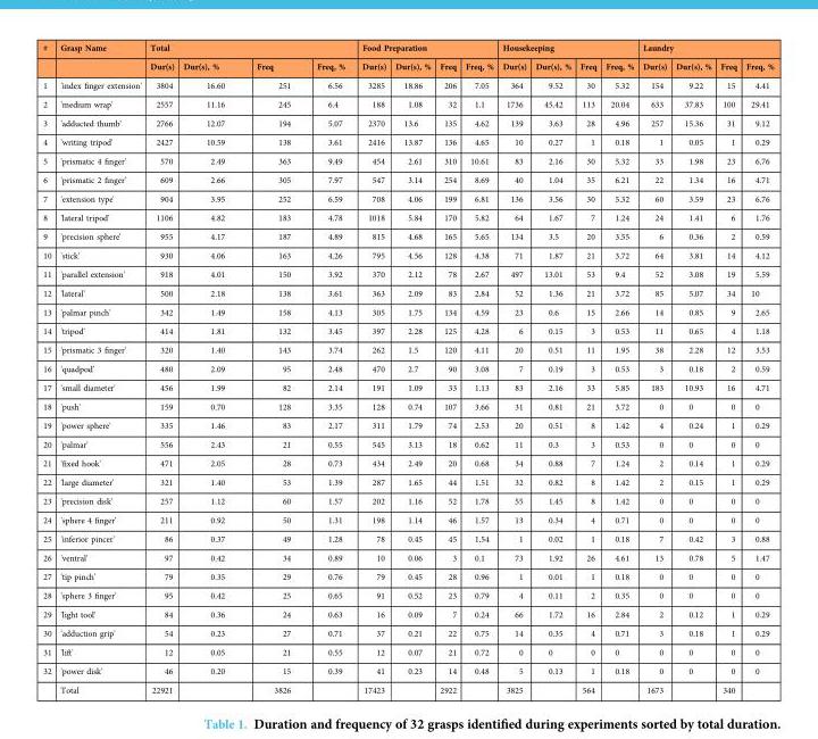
<table><thead><tr><td rowspan="2">#</td><td rowspan="2">Grasp Name</td><td colspan="4">Total</td><td colspan="4">Food Preparation</td><td colspan="4">Housekeeping</td><td colspan="4">Laundry</td></tr><tr><td>Dur(s)</td><td>Dur(s), %</td><td>Freq</td><td>Freq, %</td><td>Dur(s)</td><td>Dur(s), %</td><td>Freq</td><td>Freq, %</td><td>Dur(s)</td><td>Dur(s), %</td><td>Freq</td><td>Freq, %</td><td>Dur(s)</td><td>Dur(s), %</td><td>Freq</td><td>Freq, %</td></tr></thead><tbody><tr><td>1</td><td>&#x27;index finger extension&#x27;</td><td>3804</td><td>16.60</td><td>251</td><td>6.56</td><td>3285</td><td>18.86</td><td>206</td><td>7.05</td><td>364</td><td>9.52</td><td>30</td><td>5.32</td><td>154</td><td>9.22</td><td>15</td><td>4.41</td></tr><tr><td>2</td><td>&#x27;medium wrap&#x27;</td><td>2557</td><td>11.16</td><td>245</td><td>6.4</td><td>188</td><td>1.08</td><td>32</td><td>1.1</td><td>1736</td><td>45.42</td><td>113</td><td>20.04</td><td>633</td><td>37.83</td><td>100</td><td>29.41</td></tr><tr><td>3</td><td>&#x27;adducted thumb&#x27;</td><td>2766</td><td>12.07</td><td>194</td><td>5.07</td><td>2370</td><td>13.6</td><td>135</td><td>4.62</td><td>139</td><td>3.63</td><td>28</td><td>4.96</td><td>257</td><td>15.36</td><td>31</td><td>9.12</td></tr><tr><td>4</td><td>&#x27;writing tripod&#x27;</td><td>2427</td><td>10.59</td><td>138</td><td>3.61</td><td>2416</td><td>13.87</td><td>136</td><td>4.65</td><td>10</td><td>0.27</td><td>1</td><td>0.18</td><td>1</td><td>0.05</td><td>1</td><td>0.29</td></tr><tr><td>5</td><td>&#x27;prismatic 4 finger&#x27;</td><td>570</td><td>2.49</td><td>363</td><td>9.49</td><td>454</td><td>2.61</td><td>310</td><td>10.61</td><td>83</td><td>2.16</td><td>30</td><td>5.32</td><td>33</td><td>1.98</td><td>23</td><td>6.76</td></tr><tr><td>6</td><td>&#x27;prismatic 2 finger&#x27;</td><td>609</td><td>2.66</td><td>305</td><td>7.97</td><td>547</td><td>3.14</td><td>254</td><td>8.69</td><td>40</td><td>1.04</td><td>35</td><td>6.21</td><td>22</td><td>1.34</td><td>16</td><td>4.71</td></tr><tr><td>7</td><td>&#x27;extension type&#x27;</td><td>904</td><td>3.95</td><td>252</td><td>6.59</td><td>708</td><td>4.06</td><td>199</td><td>6.81</td><td>136</td><td>3.56</td><td>30</td><td>5.32</td><td>60</td><td>3.59</td><td>23</td><td>6.76</td></tr><tr><td>8</td><td>&#x27;lateral tripod&#x27;</td><td>1106</td><td>4.82</td><td>183</td><td>4.78</td><td>1018</td><td>5.84</td><td>170</td><td>5.82</td><td>64</td><td>1.67</td><td>7</td><td>1.24</td><td>24</td><td>1.41</td><td>6</td><td>1.76</td></tr><tr><td>9</td><td>&#x27;precision sphere&#x27;</td><td>955</td><td>4.17</td><td>187</td><td>4.89</td><td>815</td><td>4.68</td><td>165</td><td>5.65</td><td>134</td><td>3.5</td><td>20</td><td>3.55</td><td>6</td><td>0.36</td><td>2</td><td>0.59</td></tr><tr><td>10</td><td>&#x27;stick&#x27;</td><td>930</td><td>4.06</td><td>163</td><td>4.26</td><td>795</td><td>4.56</td><td>128</td><td>4.38</td><td>71</td><td>1.87</td><td>21</td><td>3.72</td><td>64</td><td>3.81</td><td>14</td><td>4.12</td></tr><tr><td>11</td><td>&#x27;parallel extension&#x27;</td><td>918</td><td>4.01</td><td>150</td><td>3.92</td><td>370</td><td>2.12</td><td>78</td><td>2.67</td><td>497</td><td>13.01</td><td>53</td><td>9.4</td><td>52</td><td>3.08</td><td>19</td><td>5.59</td></tr><tr><td>12</td><td>&#x27;lateral&#x27;</td><td>500</td><td>2.18</td><td>138</td><td>3.61</td><td>363</td><td>2.09</td><td>83</td><td>2.84</td><td>52</td><td>1.36</td><td>21</td><td>3.72</td><td>85</td><td>5.07</td><td>34</td><td>10</td></tr><tr><td>13</td><td>&#x27;palmar pinch&#x27;</td><td>342</td><td>1.49</td><td>158</td><td>4.13</td><td>305</td><td>1.75</td><td>134</td><td>4.59</td><td>23</td><td>0.6</td><td>15</td><td>2.66</td><td>14</td><td>0.85</td><td>9</td><td>2.65</td></tr><tr><td>14</td><td>&#x27;tripod&#x27;</td><td>414</td><td>1.81</td><td>132</td><td>3.45</td><td>397</td><td>2.28</td><td>125</td><td>4.28</td><td>6</td><td>0.15</td><td>3</td><td>0.53</td><td>11</td><td>0.65</td><td>4</td><td>1.18</td></tr><tr><td>15</td><td>&#x27;prismatic 3 finger&#x27;</td><td>320</td><td>1.40</td><td>143</td><td>3.74</td><td>262</td><td>1.5</td><td>120</td><td>4.11</td><td>20</td><td>0.51</td><td>11</td><td>1.95</td><td>38</td><td>2.28</td><td>12</td><td>3.53</td></tr><tr><td>16</td><td>&#x27;quadpod&#x27;</td><td>480</td><td>2.09</td><td>95</td><td>2.48</td><td>470</td><td>2.7</td><td>90</td><td>3.08</td><td>7</td><td>0.19</td><td>3</td><td>0.53</td><td>3</td><td>0.18</td><td>2</td><td>0.59</td></tr><tr><td>17</td><td>&#x27;small diameter&#x27;</td><td>456</td><td>1.99</td><td>82</td><td>2.14</td><td>191</td><td>1.09</td><td>33</td><td>1.13</td><td>83</td><td>2.16</td><td>33</td><td>5.85</td><td>183</td><td>10.93</td><td>16</td><td>4.71</td></tr><tr><td>18</td><td>&#x27;push&#x27;</td><td>159</td><td>0.70</td><td>128</td><td>3.35</td><td>128</td><td>0.74</td><td>107</td><td>3.66</td><td>31</td><td>0.81</td><td>21</td><td>3.72</td><td>0</td><td>0</td><td>0</td><td>0</td></tr><tr><td>19</td><td>&#x27;power sphere&#x27;</td><td>335</td><td>1.46</td><td>83</td><td>2.17</td><td>311</td><td>1.79</td><td>74</td><td>2.53</td><td>20</td><td>0.51</td><td>8</td><td>1.42</td><td>4</td><td>0.24</td><td>1</td><td>0.29</td></tr><tr><td>20</td><td>&#x27;palmar&#x27;</td><td>556</td><td>2.43</td><td>21</td><td>0.55</td><td>545</td><td>3.13</td><td>18</td><td>0.62</td><td>11</td><td>0.3</td><td>3</td><td>0.53</td><td>0</td><td>0</td><td>0</td><td>0</td></tr><tr><td>21</td><td>&#x27;fixed hook&#x27;</td><td>471</td><td>2.05</td><td>28</td><td>0.73</td><td>434</td><td>2.49</td><td>20</td><td>0.68</td><td>34</td><td>0.88</td><td>7</td><td>1.24</td><td>2</td><td>0.14</td><td>1</td><td>0.29</td></tr><tr><td>22</td><td>&#x27;large diameter&#x27;</td><td>321</td><td>1.40</td><td>53</td><td>1.39</td><td>287</td><td>1.65</td><td>44</td><td>1.51</td><td>32</td><td>0.82</td><td>8</td><td>1.42</td><td>2</td><td>0.15</td><td>1</td><td>0.29</td></tr><tr><td>23</td><td>&#x27;precision disk&#x27;</td><td>257</td><td>1.12</td><td>60</td><td>1.57</td><td>202</td><td>1.16</td><td>52</td><td>1.78</td><td>55</td><td>1.45</td><td>8</td><td>1.42</td><td>0</td><td>0</td><td>0</td><td>0</td></tr><tr><td>24</td><td>&#x27;sphere 4 finger&#x27;</td><td>211</td><td>0.92</td><td>50</td><td>1.31</td><td>198</td><td>1.14</td><td>46</td><td>1.57</td><td>13</td><td>0.34</td><td>4</td><td>0.71</td><td>0</td><td>0</td><td>0</td><td>0</td></tr><tr><td>25</td><td>&#x27;inferior pincer&#x27;</td><td>86</td><td>0.37</td><td>49</td><td>1.28</td><td>78</td><td>0.45</td><td>45</td><td>1.54</td><td>1</td><td>0.02</td><td>1</td><td>0.18</td><td>7</td><td>0.42</td><td>3</td><td>0.88</td></tr><tr><td>26</td><td>&#x27;ventral&#x27;</td><td>97</td><td>0.42</td><td>34</td><td>0.89</td><td>10</td><td>0.06</td><td>3</td><td>0.1</td><td>73</td><td>1.92</td><td>26</td><td>4.61</td><td>13</td><td>0.78</td><td>5</td><td>1.47</td></tr><tr><td>27</td><td>&#x27;tip pinch&#x27;</td><td>79</td><td>0.35</td><td>29</td><td>0.76</td><td>79</td><td>0.45</td><td>28</td><td>0.96</td><td>1</td><td>0.01</td><td>1</td><td>0.18</td><td>0</td><td>0</td><td>0</td><td>0</td></tr><tr><td>28</td><td>&#x27;sphere 3 finger&#x27;</td><td>95</td><td>0.42</td><td>25</td><td>0.65</td><td>91</td><td>0.52</td><td>23</td><td>0.79</td><td>4</td><td>0.11</td><td>2</td><td>0.35</td><td>0</td><td>0</td><td>0</td><td>0</td></tr><tr><td>29</td><td>&#x27;light tool&#x27;</td><td>84</td><td>0.36</td><td>24</td><td>0.63</td><td>16</td><td>0.09</td><td>7</td><td>0.24</td><td>66</td><td>1.72</td><td>16</td><td>2.84</td><td>2</td><td>0.12</td><td>1</td><td>0.29</td></tr><tr><td>30</td><td>&#x27;adduction grip&#x27;</td><td>54</td><td>0.23</td><td>27</td><td>0.71</td><td>37</td><td>0.21</td><td>22</td><td>0.75</td><td>14</td><td>0.35</td><td>4</td><td>0.71</td><td>3</td><td>0.18</td><td>1</td><td>0.29</td></tr><tr><td>31</td><td>&#x27;lift&#x27;</td><td>12</td><td>0.05</td><td>21</td><td>0.55</td><td>12</td><td>0.07</td><td>21</td><td>0.72</td><td>0</td><td>0</td><td>0</td><td>0</td><td>0</td><td>0</td><td>0</td><td>0</td></tr><tr><td rowspan="2">32</td><td>&#x27;power disk&#x27;</td><td>46</td><td>0.20</td><td>15</td><td>0.39</td><td>41</td><td>0.23</td><td>14</td><td>0.48</td><td>5</td><td>0.13</td><td>1</td><td>0.18</td><td>0</td><td>0</td><td>0</td><td>0</td></tr><tr><td>Total</td><td>22921</td><td></td><td>3826</td><td></td><td>17423</td><td></td><td>2922</td><td></td><td>3825</td><td></td><td>564</td><td></td><td>1673</td><td></td><td>340</td><td></td></tr></tbody></table>